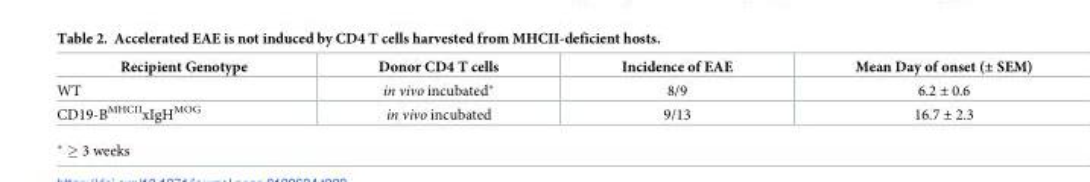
<table><thead><tr><td>Recipient Genotype</td><td>Donor CD4 T cells</td><td>Incidence of EAE</td><td>Mean Day of onset (± SEM)</td></tr></thead><tbody><tr><td>WT</td><td>in vivo incubated*</td><td>8/9</td><td>6.2 ± 0.6</td></tr><tr><td>CD19-B<sup>MHCII</sup>xIgH<sup>MOG</sup></td><td>in vivo incubated</td><td>9/13</td><td>16.7 ± 2.3</td></tr></tbody></table>